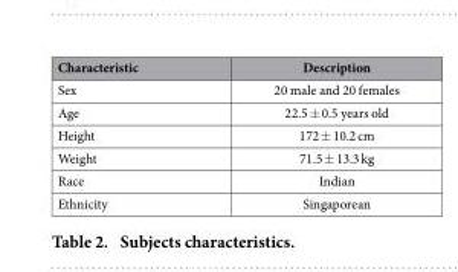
<table><thead><tr><td>Characteristic</td><td>Description</td></tr></thead><tbody><tr><td>Sex</td><td>20 male and 20 females</td></tr><tr><td>Age</td><td>22.5 ± 0.5 years old</td></tr><tr><td>Height</td><td>172 ± 10.2 cm</td></tr><tr><td>Weight</td><td>71.5 ± 13.3 kg</td></tr><tr><td>Race</td><td>Indian</td></tr><tr><td>Ethnicity</td><td>Singaporean</td></tr></tbody></table>